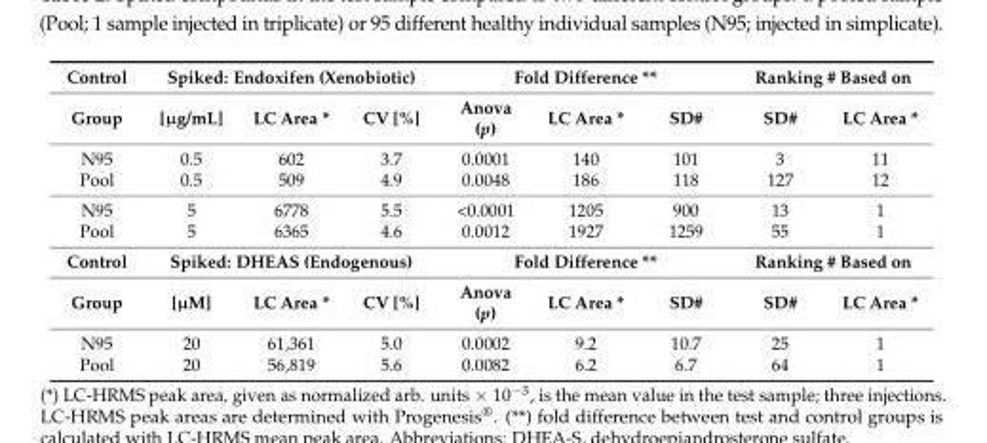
<table><tbody><tr><td>Control</td><td colspan="3">Spiked: Endoxifen (Xenobiotic)</td><td colspan="3">Fold Difference **</td><td colspan="2">Ranking # Based on</td></tr><tr><td>Group</td><td>[µg/mL]</td><td>LC Area *</td><td>CV [%]</td><td>Anova (p)</td><td>LC Area *</td><td>SD#</td><td>SD#</td><td>LC Area *</td></tr><tr><td>N95</td><td>0.5</td><td>602</td><td>3.7</td><td>0.0001</td><td>140</td><td>101</td><td>3</td><td>11</td></tr><tr><td>Pool</td><td>0.5</td><td>509</td><td>4.9</td><td>0.0048</td><td>186</td><td>118</td><td>127</td><td>12</td></tr><tr><td>N95</td><td>5</td><td>6778</td><td>5.5</td><td>&lt;0.0001</td><td>1205</td><td>900</td><td>13</td><td>1</td></tr><tr><td>Pool</td><td>5</td><td>6365</td><td>4.6</td><td>0.0012</td><td>1927</td><td>1259</td><td>55</td><td>1</td></tr><tr><td>Control</td><td colspan="3">Spiked: DHEAS (Endogenous)</td><td colspan="3">Fold Difference **</td><td colspan="2">Ranking # Based on</td></tr><tr><td>Group</td><td>[µM]</td><td>LC Area *</td><td>CV [%]</td><td>Anova (p)</td><td>LC Area *</td><td>SD#</td><td>SD#</td><td>LC Area *</td></tr><tr><td>N95</td><td>20</td><td>61,361</td><td>5.0</td><td>0.0002</td><td>9.2</td><td>10.7</td><td>25</td><td>1</td></tr><tr><td>Pool</td><td>20</td><td>56,819</td><td>5.6</td><td>0.0082</td><td>6.2</td><td>6.7</td><td>64</td><td>1</td></tr></tbody></table>